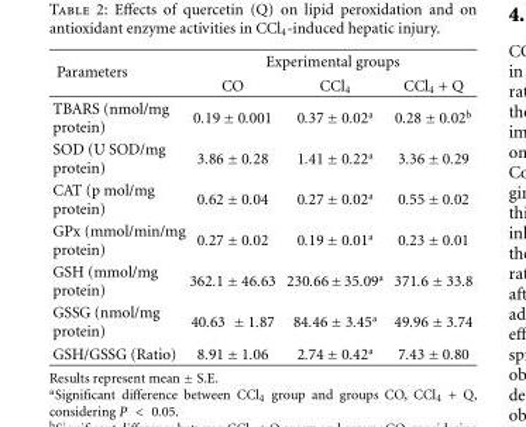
<table><thead><tr><td rowspan="2">Parameters</td><td colspan="3">Experimental groups</td></tr><tr><td>CO</td><td>CCl<sub>4</sub></td><td>CCl<sub>4</sub> + Q</td></tr></thead><tbody><tr><td>TBARS (nmol/mg protein)</td><td>0.19 ± 0.001</td><td>0.37 ± 0.02<sup>a</sup></td><td>0.28 ± 0.02<sup>b</sup></td></tr><tr><td>SOD (U SOD/mg protein)</td><td>3.86 ± 0.28</td><td>1.41 ± 0.22<sup>a</sup></td><td>3.36 ± 0.29</td></tr><tr><td>CAT (p mol/mg protein)</td><td>0.62 ± 0.04</td><td>0.27 ± 0.02<sup>a</sup></td><td>0.55 ± 0.02</td></tr><tr><td>GPx (mmol/min/mg protein)</td><td>0.27 ± 0.02</td><td>0.19 ± 0.01<sup>a</sup></td><td>0.23 ± 0.01</td></tr><tr><td>GSH (mmol/mg protein)</td><td>362.1 ± 46.63</td><td>230.66±35.09<sup>a</sup></td><td>371.6 ± 33.8</td></tr><tr><td>GSSG (nmol/mg protein)</td><td>40.63 ± 1.87</td><td>84.46 ± 3.45<sup>a</sup></td><td>49.96 ± 3.74</td></tr><tr><td>GSH/GSSG (Ratio)</td><td>8.91 ± 1.06</td><td>2.74 ± 0.42<sup>a</sup></td><td>7.43 ± 0.80</td></tr></tbody></table>